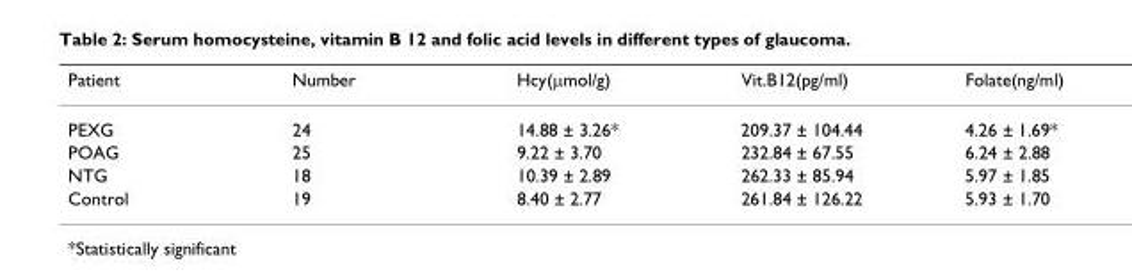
<table><thead><tr><td>Patient</td><td>Number</td><td>Hcy(µmol/g)</td><td>Vit.B12(pg/ml)</td><td>Folate(ng/ml)</td></tr></thead><tbody><tr><td>PEXG</td><td>24</td><td>14.88 ± 3.26*</td><td>209.37 ± 104.44</td><td>4.26 ± 1.69*</td></tr><tr><td>POAG</td><td>25</td><td>9.22 ± 3.70</td><td>232.84 ± 67.55</td><td>6.24 ± 2.88</td></tr><tr><td>NTG</td><td>18</td><td>10.39 ± 2.89</td><td>262.33 ± 85.94</td><td>5.97 ± 1.85</td></tr><tr><td>Control</td><td>19</td><td>8.40 ± 2.77</td><td>261.84 ± 126.22</td><td>5.93 ± 1.70</td></tr></tbody></table>